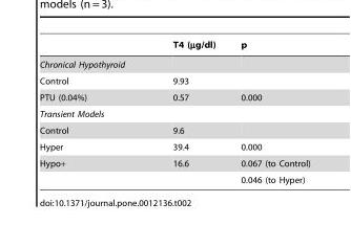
<table><thead><tr><td></td><td>T4 (µg/dl)</td><td>p</td></tr></thead><tbody><tr><td colspan="3">Chronical Hypothyroid</td></tr><tr><td>Control</td><td>9.93</td><td></td></tr><tr><td>PTU (0.04%)</td><td>0.57</td><td>0.000</td></tr><tr><td colspan="3">Transient Models</td></tr><tr><td>Control</td><td>9.6</td><td></td></tr><tr><td>Hyper</td><td>39.4</td><td>0.000</td></tr><tr><td rowspan="2">Hypo+</td><td>16.6</td><td>0.067 (to Control)</td></tr><tr><td></td><td>0.046 (to Hyper)</td></tr></tbody></table>